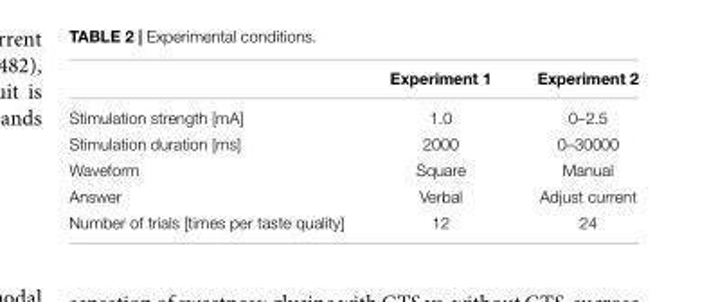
<table><thead><tr><td></td><td>Experiment 1</td><td>Experiment 2</td></tr></thead><tbody><tr><td>Stimulation strength [mA]</td><td>1.0</td><td>0–2.5</td></tr><tr><td>Stimulation duration [ms]</td><td>2000</td><td>0–30000</td></tr><tr><td>Waveform</td><td>Square</td><td>Manual</td></tr><tr><td>Answer</td><td>Verbal</td><td>Adjust current</td></tr><tr><td>Number of trials [times per taste quality]</td><td>12</td><td>24</td></tr></tbody></table>